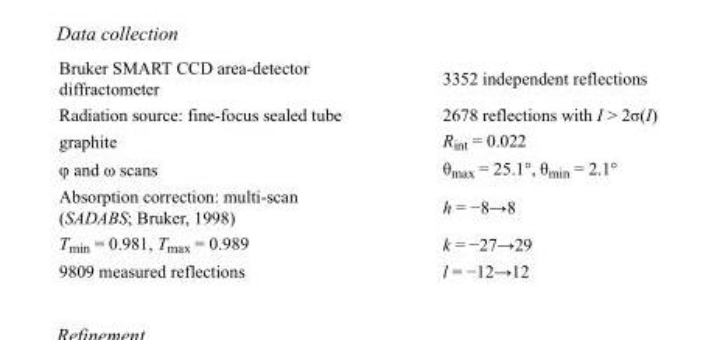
<table><tbody><tr><td>Bruker SMART CCD area-detector diffractometer</td><td>3352 independent reflections</td></tr><tr><td>Radiation source: fine-focus sealed tube</td><td>2678 reflections with I &gt; 2σ(I)</td></tr><tr><td>graphite</td><td>R<sub>int</sub> = 0.022</td></tr><tr><td>φ and ω scans</td><td>θ<sub>max</sub> = 25.1°, θ<sub>min</sub> = 2.1°</td></tr><tr><td>Absorption correction: multi-scan (SADABS; Bruker, 1998)</td><td>h = −8→8</td></tr><tr><td>T<sub>min</sub> = 0.981, T<sub>max</sub> = 0.989</td><td>k = −27→29</td></tr><tr><td>9809 measured reflections</td><td>l = −12→12</td></tr></tbody></table>